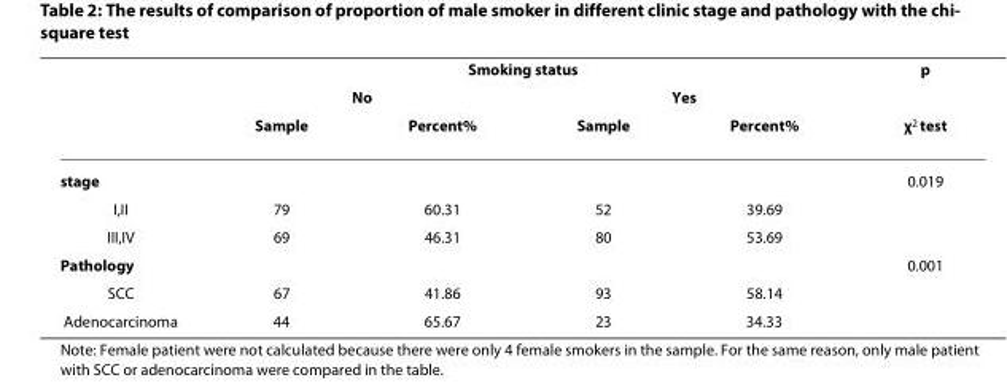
<table><thead><tr><td rowspan="3"></td><td colspan="4">Smoking status</td><td rowspan="3">p χ<sup>2</sup> test</td></tr><tr><td colspan="2">No</td><td colspan="2">Yes</td></tr><tr><td>Sample</td><td>Percent%</td><td>Sample</td><td>Percent%</td></tr></thead><tbody><tr><td>stage</td><td></td><td></td><td></td><td></td><td>0.019</td></tr><tr><td>I,II</td><td>79</td><td>60.31</td><td>52</td><td>39.69</td><td></td></tr><tr><td>III,IV</td><td>69</td><td>46.31</td><td>80</td><td>53.69</td><td></td></tr><tr><td>Pathology</td><td></td><td></td><td></td><td></td><td>0.001</td></tr><tr><td>SCC</td><td>67</td><td>41.86</td><td>93</td><td>58.14</td><td></td></tr><tr><td>Adenocarcinoma</td><td>44</td><td>65.67</td><td>23</td><td>34.33</td><td></td></tr></tbody></table>